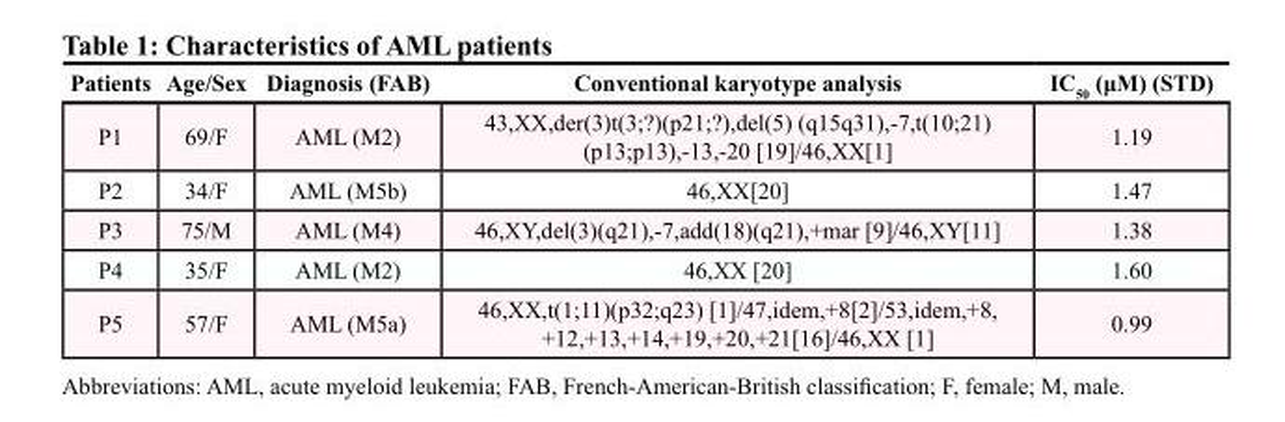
<table><thead><tr><td>Patients</td><td>Age/Sex</td><td>Diagnosis (FAB)</td><td>Conventional karyotype analysis</td><td>IC<sub>50</sub> (μM) (STD)</td></tr></thead><tbody><tr><td>P1</td><td>69/F</td><td>AML (M2)</td><td>43,XX,der(3)t(3;?)(p21;?),del(5) (q15q31),-7,t(10;21) (p13;p13),-13,-20 [19]/46,XX[1]</td><td>1.19</td></tr><tr><td>P2</td><td>34/F</td><td>AML (M5b)</td><td>46,XX[20]</td><td>1.47</td></tr><tr><td>P3</td><td>75/M</td><td>AML (M4)</td><td>46,XY,del(3)(q21),-7,add(18)(q21),+mar [9]/46,XY[11]</td><td>1.38</td></tr><tr><td>P4</td><td>35/F</td><td>AML (M2)</td><td>46,XX [20]</td><td>1.60</td></tr><tr><td>P5</td><td>57/F</td><td>AML (M5a)</td><td>46,XX,t(1;11)(p32;q23) [1]/47,idem,+8[2]/53,idem,+8, +12,+13,+14,+19,+20,+21[16]/46,XX [1]</td><td>0.99</td></tr></tbody></table>